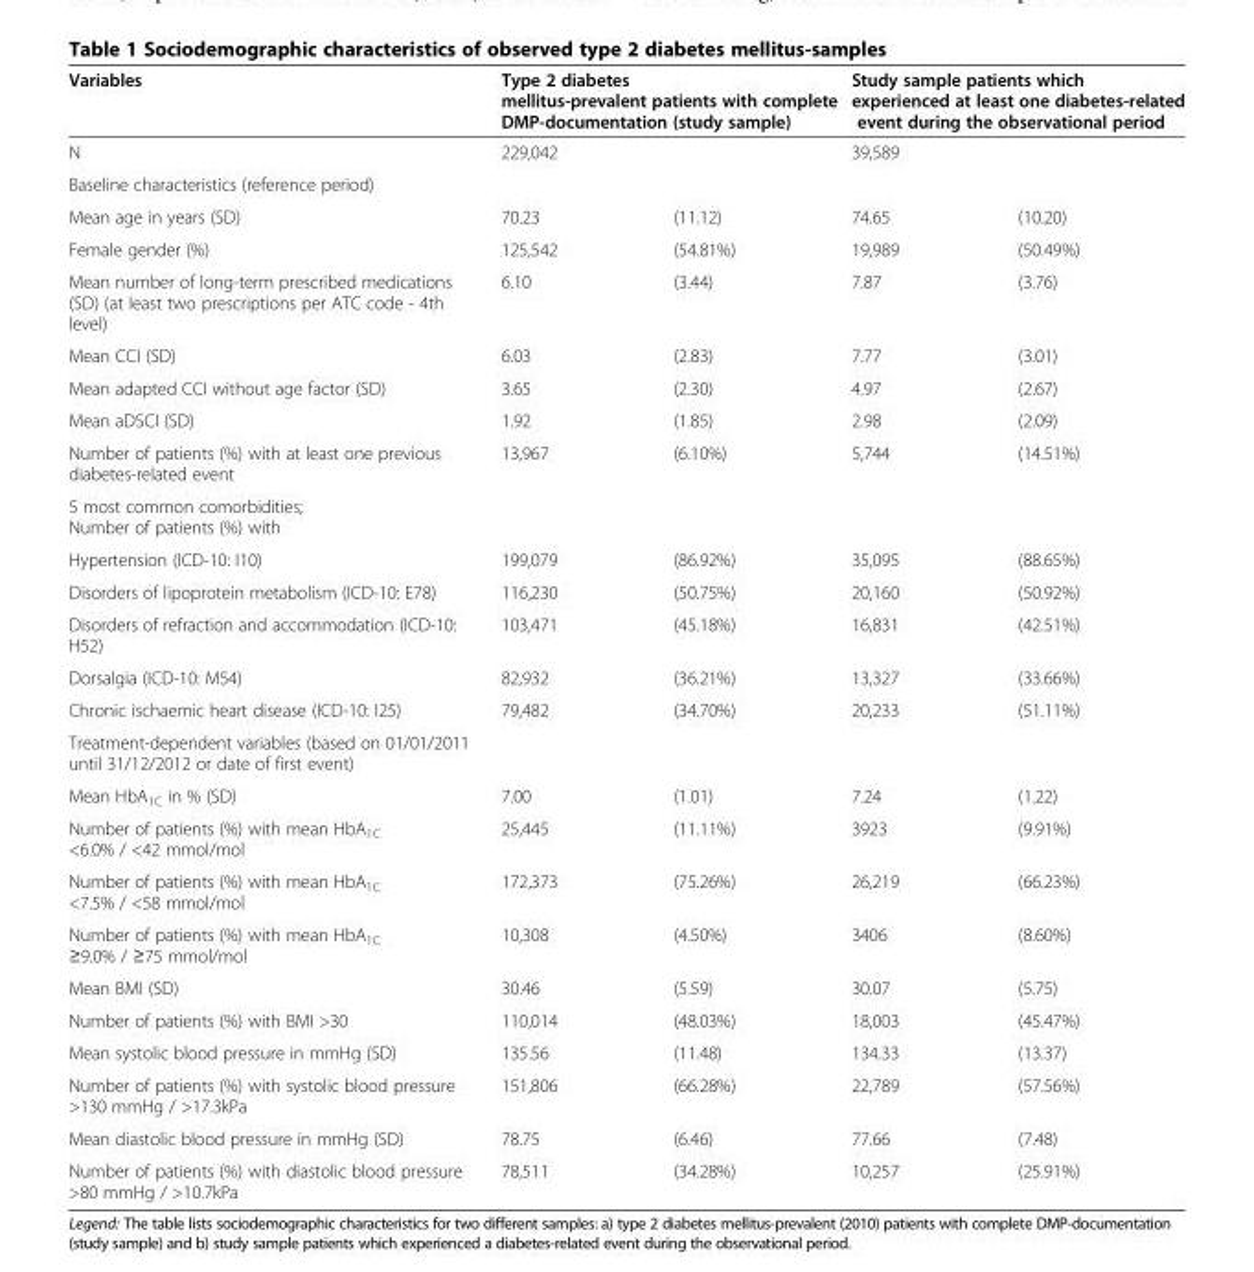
<table><thead><tr><td rowspan="4">Variables N Baseline characteristics (reference period) Mean age in years (SD)</td><td rowspan="2" colspan="2">Type 2 diabetes mellitus-prevalent patients with complete DMP-documentation (study sample) 229,042</td><td rowspan="2" colspan="2">Study sample patients which experienced at least one diabetes-related event during the observational period 39,589</td></tr><tr></tr><tr><td colspan="4"></td></tr><tr><td>70.23</td><td>(11.12)</td><td>74.65</td><td>(10.20)</td></tr></thead><tbody><tr><td>Female gender (%)</td><td>125,542</td><td>(54.81%)</td><td>19,989</td><td>(50.49%)</td></tr><tr><td>Mean number of long-term prescribed medications (SD) (at least two prescriptions per ATC code - 4th level)</td><td>6.10</td><td>(3.44)</td><td>7.87</td><td>(3.76)</td></tr><tr><td>Mean CCI (SD)</td><td>6.03</td><td>(2.83)</td><td>7.77</td><td>(3.01)</td></tr><tr><td>Mean adapted CCI without age factor (SD)</td><td>3.65</td><td>(2.30)</td><td>4.97</td><td>(2.67)</td></tr><tr><td>Mean aDSCI (SD)</td><td>1.92</td><td>(1.85)</td><td>2.98</td><td>(2.09)</td></tr><tr><td>Number of patients (%) with at least one previous diabetes-related event</td><td>13,967</td><td>(6.10%)</td><td>5,744</td><td>(14.51%)</td></tr><tr><td colspan="5">5 most common comorbidities; Number of patients (%) with</td></tr><tr><td>Hypertension (ICD-10: I10)</td><td>199,079</td><td>(86.92%)</td><td>35,095</td><td>(88.65%)</td></tr><tr><td>Disorders of lipoprotein metabolism (ICD-10: E78)</td><td>116,230</td><td>(50.75%)</td><td>20,160</td><td>(50.92%)</td></tr><tr><td>Disorders of refraction and accommodation (ICD-10: H52)</td><td>103,471</td><td>(45.18%)</td><td>16,831</td><td>(42.51%)</td></tr><tr><td>Dorsalgia (ICD-10: M54)</td><td>82,932</td><td>(36.21%)</td><td>13,327</td><td>(33.66%)</td></tr><tr><td>Chronic ischaemic heart disease (ICD-10: I25)</td><td>79,482</td><td>(34.70%)</td><td>20,233</td><td>(51.11%)</td></tr><tr><td colspan="5">Treatment-dependent variables (based on 01/01/2011 until 31/12/2012 or date of first event)</td></tr><tr><td>Mean HbA<sub>1C</sub> in % (SD)</td><td>7.00</td><td>(1.01)</td><td>7.24</td><td>(1.22)</td></tr><tr><td>Number of patients (%) with mean HbA<sub>1C</sub> &lt;6.0% / &lt;42 mmol/mol</td><td>25,445</td><td>(11.11%)</td><td>3923</td><td>(9.91%)</td></tr><tr><td>Number of patients (%) with mean HbA<sub>1C</sub> &lt;7.5% / &lt;58 mmol/mol</td><td>172,373</td><td>(75.26%)</td><td>26,219</td><td>(66.23%)</td></tr><tr><td>Number of patients (%) with mean HbA<sub>1C</sub> ≥9.0% / ≥75 mmol/mol</td><td>10,308</td><td>(4.50%)</td><td>3406</td><td>(8.60%)</td></tr><tr><td>Mean BMI (SD)</td><td>30.46</td><td>(5.59)</td><td>30.07</td><td>(5.75)</td></tr><tr><td>Number of patients (%) with BMI &gt;30</td><td>110,014</td><td>(48.03%)</td><td>18,003</td><td>(45.47%)</td></tr><tr><td>Mean systolic blood pressure in mmHg (SD)</td><td>135.56</td><td>(11.48)</td><td>134.33</td><td>(13.37)</td></tr><tr><td>Number of patients (%) with systolic blood pressure &gt;130 mmHg / &gt;17.3kPa</td><td>151,806</td><td>(66.28%)</td><td>22,789</td><td>(57.56%)</td></tr><tr><td>Mean diastolic blood pressure in mmHg (SD)</td><td>78.75</td><td>(6.46)</td><td>77.66</td><td>(7.48)</td></tr><tr><td>Number of patients (%) with diastolic blood pressure &gt;80 mmHg / &gt;10.7kPa</td><td>78,511</td><td>(34.28%)</td><td>10,257</td><td>(25.91%)</td></tr></tbody></table>